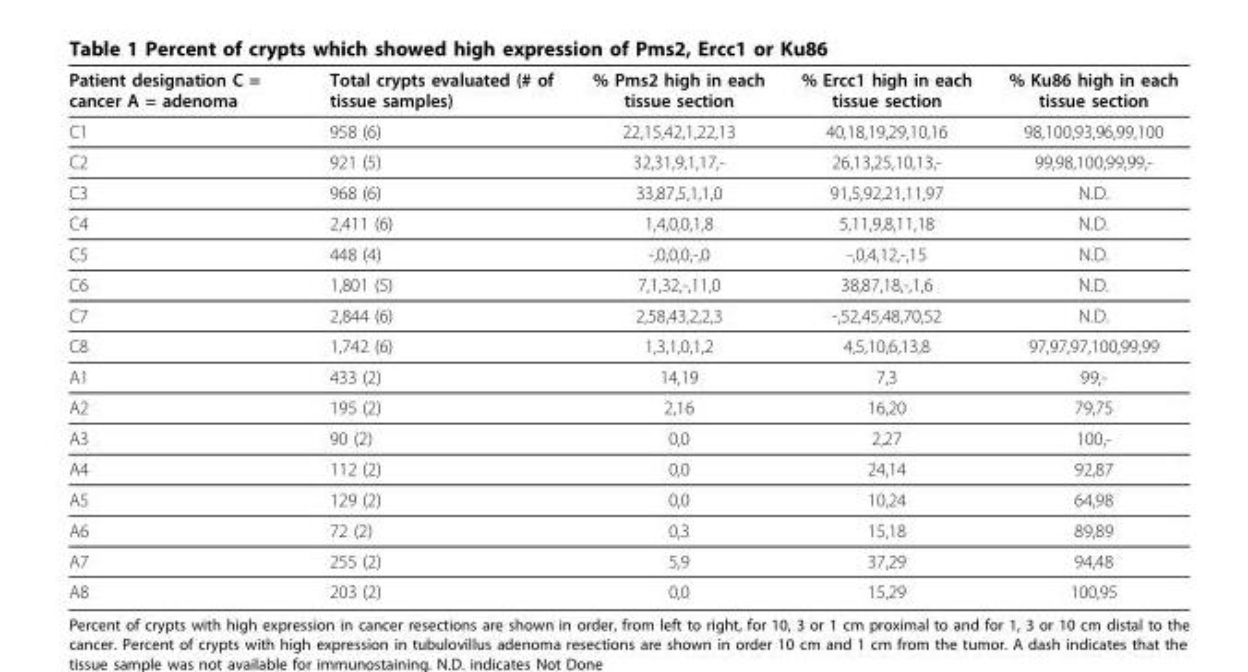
<table><thead><tr><td>Patient designation C = cancer A = adenoma</td><td>Total crypts evaluated (# of tissue samples)</td><td>% Pms2 high in each tissue section</td><td>% Ercc1 high in each tissue section</td><td>% Ku86 high in each tissue section</td></tr></thead><tbody><tr><td>C1</td><td>958 (6)</td><td>22,15,42,1,22,13</td><td>40,18,19,29,10,16</td><td>98,100,93,96,99,100</td></tr><tr><td>C2</td><td>921 (5)</td><td>32,31,9,1,17,-</td><td>26,13,25,10,13,-</td><td>99,98,100,99,99,-</td></tr><tr><td>C3</td><td>968 (6)</td><td>33,87,5,1,1,0</td><td>91,5,92,21,11,97</td><td>N.D.</td></tr><tr><td>C4</td><td>2,411 (6)</td><td>1,4,0,0,1,8</td><td>5,11,9,8,11,18</td><td>N.D.</td></tr><tr><td>C5</td><td>448 (4)</td><td>-,0,0,0,-,0</td><td>-,0,4,12,-,15</td><td>N.D.</td></tr><tr><td>C6</td><td>1,801 (5)</td><td>7,1,32,-,11,0</td><td>38,87,18,-,1,6</td><td>N.D.</td></tr><tr><td>C7</td><td>2,844 (6)</td><td>2,58,43,2,2,3</td><td>-,52,45,48,70,52</td><td>N.D.</td></tr><tr><td>C8</td><td>1,742 (6)</td><td>1,3,1,0,1,2</td><td>4,5,10,6,13,8</td><td>97,97,97,100,99,99</td></tr><tr><td>A1</td><td>433 (2)</td><td>14,19</td><td>7,3</td><td>99,-</td></tr><tr><td>A2</td><td>195 (2)</td><td>2,16</td><td>16,20</td><td>79,75</td></tr><tr><td>A3</td><td>90 (2)</td><td>0,0</td><td>2,27</td><td>100,-</td></tr><tr><td>A4</td><td>112 (2)</td><td>0,0</td><td>24,14</td><td>92,87</td></tr><tr><td>A5</td><td>129 (2)</td><td>0,0</td><td>10,24</td><td>64,98</td></tr><tr><td>A6</td><td>72 (2)</td><td>0,3</td><td>15,18</td><td>89,89</td></tr><tr><td>A7</td><td>255 (2)</td><td>5,9</td><td>37,29</td><td>94,48</td></tr><tr><td>A8</td><td>203 (2)</td><td>0,0</td><td>15,29</td><td>100,95</td></tr></tbody></table>